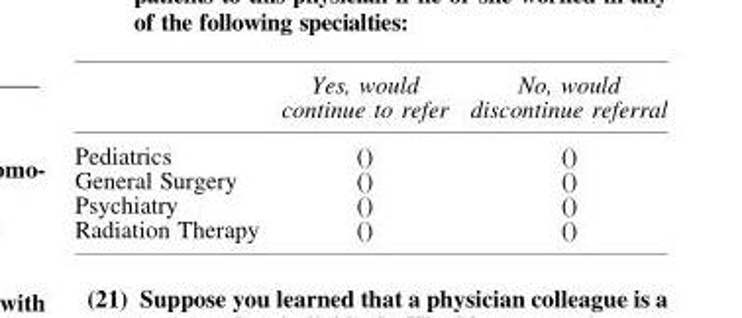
<table><thead><tr><td></td><td>Yes, would continue to refer</td><td>No, would discontinue referral</td></tr></thead><tbody><tr><td>Pediatrics</td><td>()</td><td>()</td></tr><tr><td>General Surgery</td><td>()</td><td>()</td></tr><tr><td>Psychiatry</td><td>()</td><td>()</td></tr><tr><td>Radiation Therapy</td><td>()</td><td>()</td></tr></tbody></table>